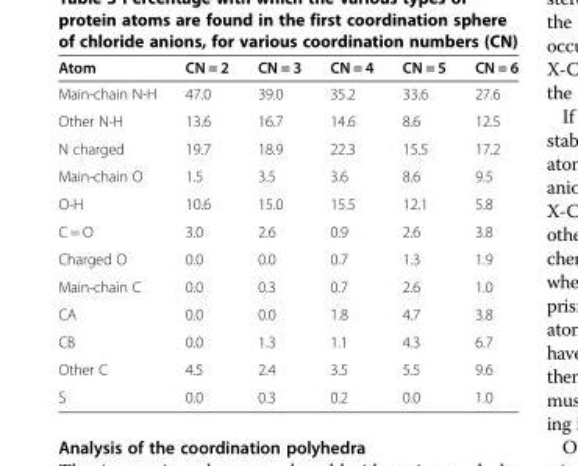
<table><thead><tr><td>Atom</td><td>CN = 2</td><td>CN = 3</td><td>CN = 4</td><td>CN = 5</td><td>CN = 6</td></tr></thead><tbody><tr><td>Main-chain N-H</td><td>47.0</td><td>39.0</td><td>35.2</td><td>33.6</td><td>27.6</td></tr><tr><td>Other N-H</td><td>13.6</td><td>16.7</td><td>14.6</td><td>8.6</td><td>12.5</td></tr><tr><td>N charged</td><td>19.7</td><td>18.9</td><td>22.3</td><td>15.5</td><td>17.2</td></tr><tr><td>Main-chain O</td><td>1.5</td><td>3.5</td><td>3.6</td><td>8.6</td><td>9.5</td></tr><tr><td>O-H</td><td>10.6</td><td>15.0</td><td>15.5</td><td>12.1</td><td>5.8</td></tr><tr><td>C = O</td><td>3.0</td><td>2.6</td><td>0.9</td><td>2.6</td><td>3.8</td></tr><tr><td>Charged O</td><td>0.0</td><td>0.0</td><td>0.7</td><td>1.3</td><td>1.9</td></tr><tr><td>Main-chain C</td><td>0.0</td><td>0.3</td><td>0.7</td><td>2.6</td><td>1.0</td></tr><tr><td>CA</td><td>0.0</td><td>0.0</td><td>1.8</td><td>4.7</td><td>3.8</td></tr><tr><td>CB</td><td>0.0</td><td>1.3</td><td>1.1</td><td>4.3</td><td>6.7</td></tr><tr><td>Other C</td><td>4.5</td><td>2.4</td><td>3.5</td><td>5.5</td><td>9.6</td></tr><tr><td>S</td><td>0.0</td><td>0.3</td><td>0.2</td><td>0.0</td><td>1.0</td></tr></tbody></table>